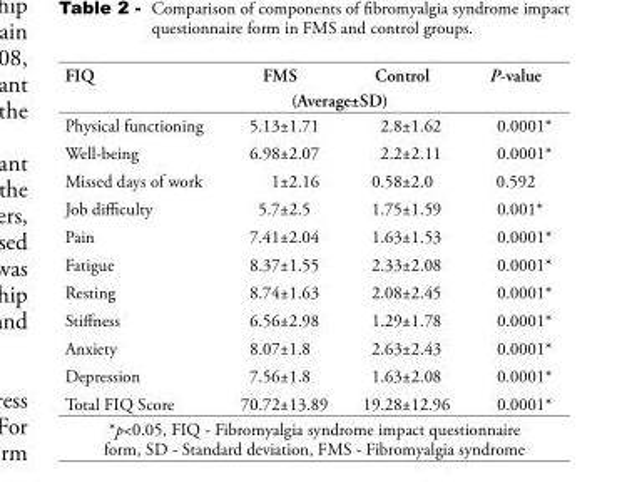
<table><thead><tr><td rowspan="2">FIQ</td><td>FMS</td><td>Control</td><td rowspan="2">P-value</td></tr><tr><td colspan="2">(Average±SD)</td></tr></thead><tbody><tr><td>Physical functioning</td><td>5.13±1.71</td><td>2.8±1.62</td><td>0.0001*</td></tr><tr><td>Well-being</td><td>6.98±2.07</td><td>2.2±2.11</td><td>0.0001*</td></tr><tr><td>Missed days of work</td><td>1±2.16</td><td>0.58±2.0</td><td>0.592</td></tr><tr><td>Job difficulty</td><td>5.7±2.5</td><td>1.75±1.59</td><td>0.001*</td></tr><tr><td>Pain</td><td>7.41±2.04</td><td>1.63±1.53</td><td>0.0001*</td></tr><tr><td>Fatigue</td><td>8.37±1.55</td><td>2.33±2.08</td><td>0.0001*</td></tr><tr><td>Resting</td><td>8.74±1.63</td><td>2.08±2.45</td><td>0.0001*</td></tr><tr><td>Stiffness</td><td>6.56±2.98</td><td>1.29±1.78</td><td>0.0001*</td></tr><tr><td>Anxiety</td><td>8.07±1.8</td><td>2.63±2.43</td><td>0.0001*</td></tr><tr><td>Depression</td><td>7.56±1.8</td><td>1.63±2.08</td><td>0.0001*</td></tr><tr><td>Total FIQ Score</td><td>70.72±13.89</td><td>19.28±12.96</td><td>0.0001*</td></tr></tbody></table>